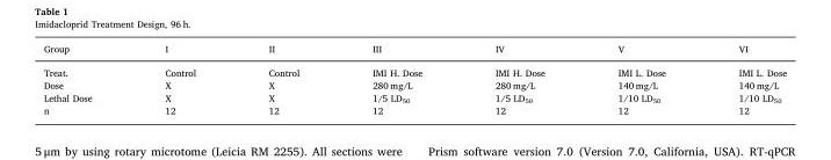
<table><thead><tr><td>Group</td><td>I</td><td>II</td><td>III</td><td>IV</td><td>V</td><td>VI</td></tr></thead><tbody><tr><td>Treat.</td><td>Control</td><td>Control</td><td>IMI H. Dose</td><td>IMI H. Dose</td><td>IMI L. Dose</td><td>IMI L. Dose</td></tr><tr><td>Dose</td><td>X</td><td>X</td><td>280 mg/L</td><td>280 mg/L</td><td>140 mg/L</td><td>140 mg/L</td></tr><tr><td>Lethal Dose</td><td>X</td><td>X</td><td>1/5 LD<sub>50</sub></td><td>1/5 LD<sub>50</sub></td><td>1/10 LD<sub>50</sub></td><td>1/10 LD<sub>50</sub></td></tr><tr><td>n</td><td>12</td><td>12</td><td>12</td><td>12</td><td>12</td><td>12</td></tr></tbody></table>